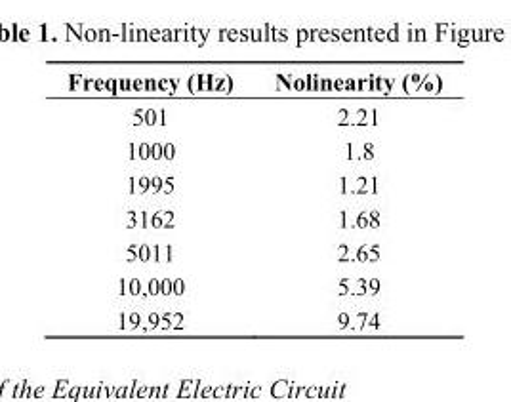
<table><thead><tr><td>Frequency (Hz)</td><td>Nolinearity (%)</td></tr></thead><tbody><tr><td>501</td><td>2.21</td></tr><tr><td>1000</td><td>1.8</td></tr><tr><td>1995</td><td>1.21</td></tr><tr><td>3162</td><td>1.68</td></tr><tr><td>5011</td><td>2.65</td></tr><tr><td>10,000</td><td>5.39</td></tr><tr><td>19,952</td><td>9.74</td></tr></tbody></table>